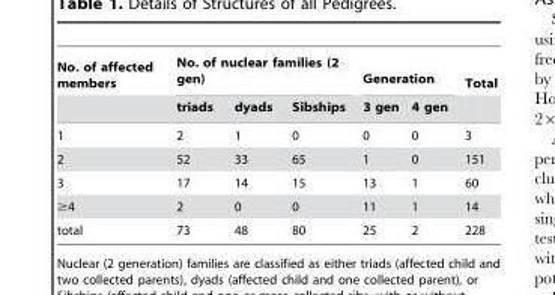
<table><thead><tr><td rowspan="2">No. of affected members</td><td colspan="3">No. of nuclear families (2 gen)</td><td colspan="2">Generation</td><td rowspan="2">Total</td></tr><tr><td>triads</td><td>dyads</td><td>Sibships</td><td>3 gen</td><td>4 gen</td></tr></thead><tbody><tr><td>1</td><td>2</td><td>1</td><td>0</td><td>0</td><td>0</td><td>3</td></tr><tr><td>2</td><td>52</td><td>33</td><td>65</td><td>1</td><td>0</td><td>151</td></tr><tr><td>3</td><td>17</td><td>14</td><td>15</td><td>13</td><td>1</td><td>60</td></tr><tr><td>≥4</td><td>2</td><td>0</td><td>0</td><td>11</td><td>1</td><td>14</td></tr><tr><td>total</td><td>73</td><td>48</td><td>80</td><td>25</td><td>2</td><td>228</td></tr></tbody></table>